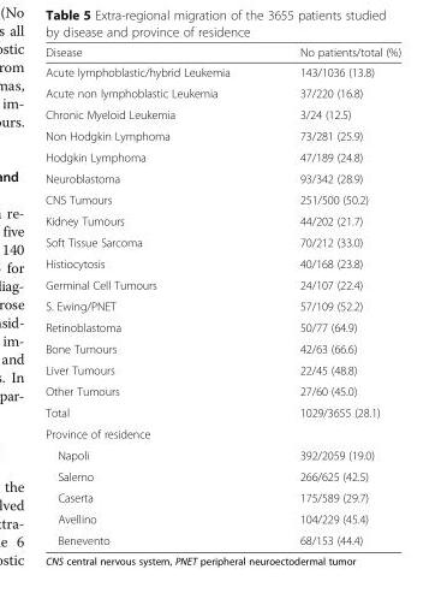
<table><thead><tr><td>Disease</td><td>No patients/total (%)</td></tr></thead><tbody><tr><td>Acute lymphoblastic/hybrid Leukemia</td><td>143/1036 (13.8)</td></tr><tr><td>Acute non lymphoblastic Leukemia</td><td>37/220 (16.8)</td></tr><tr><td>Chronic Myeloid Leukemia</td><td>3/24 (12.5)</td></tr><tr><td>Non Hodgkin Lymphoma</td><td>73/281 (25.9)</td></tr><tr><td>Hodgkin Lymphoma</td><td>47/189 (24.8)</td></tr><tr><td>Neuroblastoma</td><td>93/342 (28.9)</td></tr><tr><td>CNS Tumours</td><td>251/500 (50.2)</td></tr><tr><td>Kidney Tumours</td><td>44/202 (21.7)</td></tr><tr><td>Soft Tissue Sarcoma</td><td>70/212 (33.0)</td></tr><tr><td>Histiocytosis</td><td>40/168 (23.8)</td></tr><tr><td>Germinal Cell Tumours</td><td>24/107 (22.4)</td></tr><tr><td>S. Ewing/PNET</td><td>57/109 (52.2)</td></tr><tr><td>Retinoblastoma</td><td>50/77 (64.9)</td></tr><tr><td>Bone Tumours</td><td>42/63 (66.6)</td></tr><tr><td>Liver Tumours</td><td>22/45 (48.8)</td></tr><tr><td>Other Tumours</td><td>27/60 (45.0)</td></tr><tr><td>Total</td><td>1029/3655 (28.1)</td></tr><tr><td colspan="2">Province of residence</td></tr><tr><td>Napoli</td><td>392/2059 (19.0)</td></tr><tr><td>Salerno</td><td>266/625 (42.5)</td></tr><tr><td>Caserta</td><td>175/589 (29.7)</td></tr><tr><td>Avellino</td><td>104/229 (45.4)</td></tr><tr><td>Benevento</td><td>68/153 (44.4)</td></tr></tbody></table>